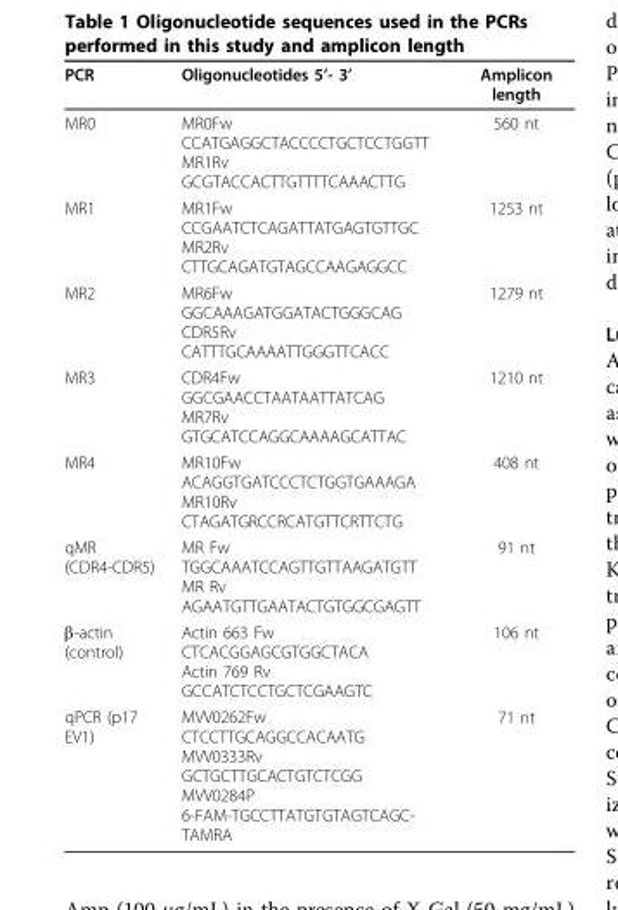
<table><thead><tr><td>PCR</td><td>Oligonucleotides 5’- 3’</td><td>Amplicon length</td></tr></thead><tbody><tr><td>MR0</td><td>MR0Fw CCATGAGGCTACCCCTGCTCCTGGTT MR1Rv GCGTACCACTTGTTTTCAAACTTG</td><td>560 nt</td></tr><tr><td>MR1</td><td>MR1Fw CCGAATCTCAGATTATGAGTGTTGC MR2Rv CTTGCAGATGTAGCCAAGAGGCC</td><td>1253 nt</td></tr><tr><td>MR2</td><td>MR6Fw GGCAAAGATGGATACTGGGCAG CDR5Rv CATTTGCAAAATTGGGTTCACC</td><td>1279 nt</td></tr><tr><td>MR3</td><td>CDR4Fw GGCGAACCTAATAATTATCAG MR7Rv GTGCATCCAGGCAAAAGCATTAC</td><td>1210 nt</td></tr><tr><td>MR4</td><td>MR10Fw ACAGGTGATCCCTCTGGTGAAAGA MR10Rv CTAGATGRCCRCATGTTCRTTCTG</td><td>408 nt</td></tr><tr><td>qMR (CDR4-CDR5)</td><td>MR Fw TGGCAAATCCAGTTGTTAAGATGTT MR Rv AGAATGTTGAATACTGTGGCGAGTT</td><td>91 nt</td></tr><tr><td>β-actin (control)</td><td>Actin 663 Fw CTCACGGAGCGTGGCTACA Actin 769 Rv GCCATCTCCTGCTCGAAGTC</td><td>106 nt</td></tr><tr><td>qPCR (p17 EV1)</td><td>MVV0262Fw CTCCTTGCAGGCCACAATG MVV0333Rv GCTGCTTGCACTGTCTCGG MVV0284P 6-FAM-TGCCTTATGTGTAGTCAGC- TAMRA</td><td>71 nt</td></tr></tbody></table>